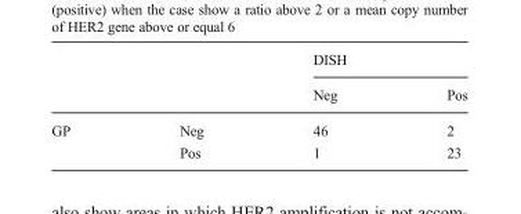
<table><thead><tr><td rowspan="2"></td><td rowspan="2"></td><td colspan="2">DISH</td></tr><tr><td>Neg</td><td>Pos</td></tr></thead><tbody><tr><td rowspan="2">GP</td><td>Neg</td><td>46</td><td>2</td></tr><tr><td>Pos</td><td>1</td><td>23</td></tr></tbody></table>